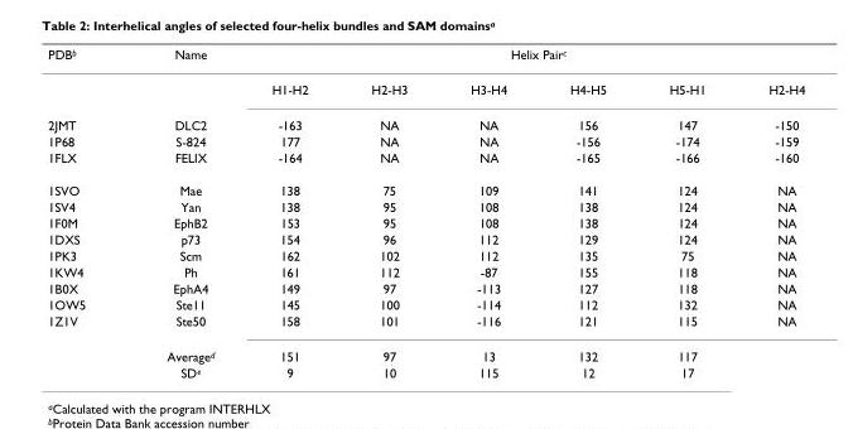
<table><tbody><tr><td rowspan="2">PDB<sup>b</sup></td><td>Name</td><td colspan="6">Helix Pair<sup>c</sup></td></tr><tr><td></td><td>H1-H2</td><td>H2-H3</td><td>H3-H4</td><td>H4-H5</td><td>H5-H1</td><td>H2-H4</td></tr><tr><td>2JMT</td><td>DLC2</td><td>-163</td><td>NA</td><td>NA</td><td>156</td><td>147</td><td>-150</td></tr><tr><td>1P68</td><td>S-824</td><td>177</td><td>NA</td><td>NA</td><td>-156</td><td>-174</td><td>-159</td></tr><tr><td>1FLX</td><td>FELIX</td><td>-164</td><td>NA</td><td>NA</td><td>-165</td><td>-166</td><td>-160</td></tr><tr><td>1SVO</td><td>Mae</td><td>138</td><td>75</td><td>109</td><td>141</td><td>124</td><td>NA</td></tr><tr><td>1SV4</td><td>Yan</td><td>138</td><td>95</td><td>108</td><td>138</td><td>124</td><td>NA</td></tr><tr><td>1F0M</td><td>EphB2</td><td>153</td><td>95</td><td>108</td><td>138</td><td>124</td><td>NA</td></tr><tr><td>1DXS</td><td>p73</td><td>154</td><td>96</td><td>112</td><td>129</td><td>124</td><td>NA</td></tr><tr><td>1PK3</td><td>Scm</td><td>162</td><td>102</td><td>112</td><td>135</td><td>75</td><td>NA</td></tr><tr><td>1KW4</td><td>Ph</td><td>161</td><td>112</td><td>-87</td><td>155</td><td>118</td><td>NA</td></tr><tr><td>1B0X</td><td>EphA4</td><td>149</td><td>97</td><td>-113</td><td>127</td><td>118</td><td>NA</td></tr><tr><td>1OW5</td><td>Ste11</td><td>145</td><td>100</td><td>-114</td><td>112</td><td>132</td><td>NA</td></tr><tr><td rowspan="3">1Z1V</td><td>Ste50</td><td>158</td><td>101</td><td>-116</td><td>121</td><td>115</td><td>NA</td></tr><tr><td>Average<sup>d</sup></td><td>151</td><td>97</td><td>13</td><td>132</td><td>117</td><td></td></tr><tr><td>SD<sup>e</sup></td><td>9</td><td>10</td><td>115</td><td>12</td><td>17</td><td></td></tr></tbody></table>